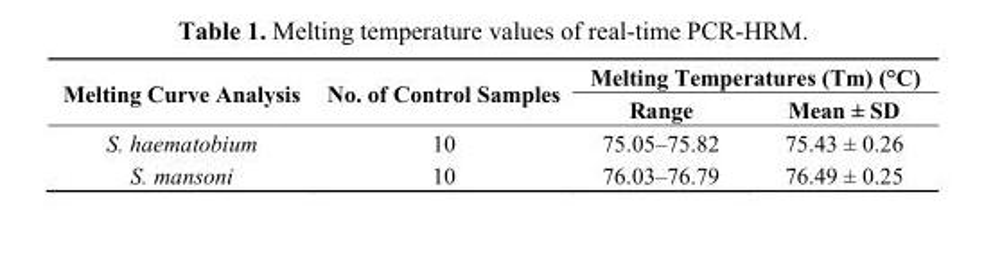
<table><thead><tr><td rowspan="2">Melting Curve Analysis</td><td rowspan="2">No. of Control Samples</td><td colspan="2">Melting Temperatures (Tm) (°C)</td></tr><tr><td>Range</td><td>Mean ± SD</td></tr></thead><tbody><tr><td>S. haematobium</td><td>10</td><td>75.05–75.82</td><td>75.43 ± 0.26</td></tr><tr><td>S. mansoni</td><td>10</td><td>76.03–76.79</td><td>76.49 ± 0.25</td></tr></tbody></table>